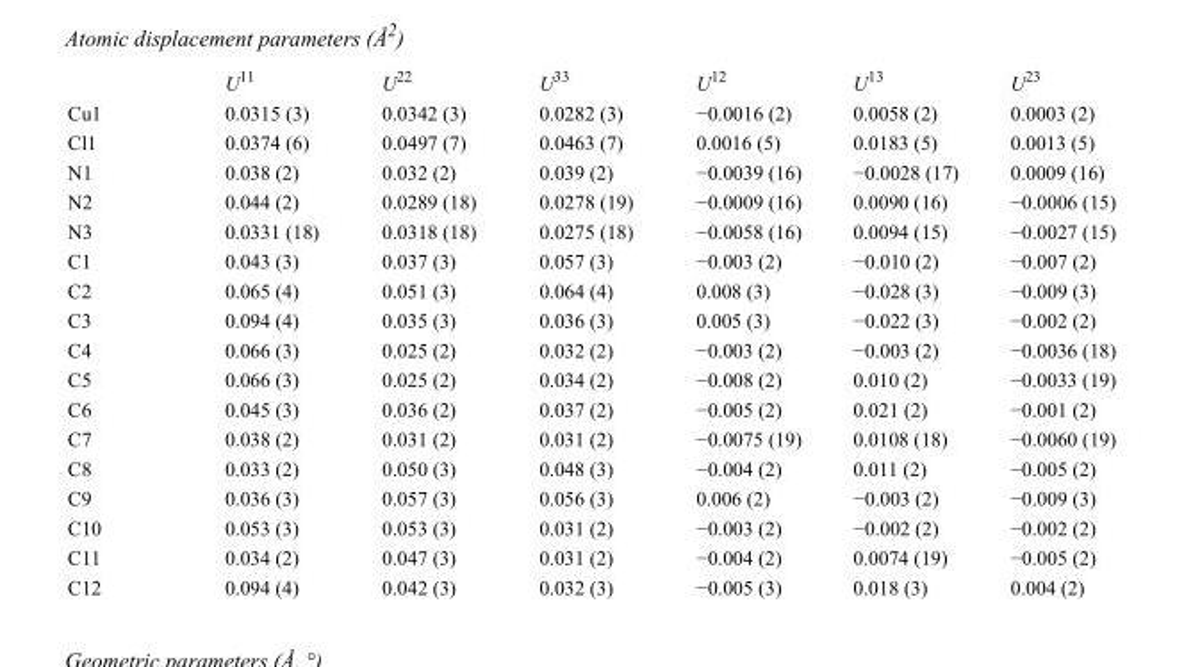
<table><thead><tr><td></td><td>U<sup>11</sup></td><td>U<sup>22</sup></td><td>U<sup>33</sup></td><td>U<sup>12</sup></td><td>U<sup>13</sup></td><td>U<sup>23</sup></td></tr></thead><tbody><tr><td>Cu1</td><td>0.0315 (3)</td><td>0.0342 (3)</td><td>0.0282 (3)</td><td>−0.0016 (2)</td><td>0.0058 (2)</td><td>0.0003 (2)</td></tr><tr><td>Cl1</td><td>0.0374 (6)</td><td>0.0497 (7)</td><td>0.0463 (7)</td><td>0.0016 (5)</td><td>0.0183 (5)</td><td>0.0013 (5)</td></tr><tr><td>N1</td><td>0.038 (2)</td><td>0.032 (2)</td><td>0.039 (2)</td><td>−0.0039 (16)</td><td>−0.0028 (17)</td><td>0.0009 (16)</td></tr><tr><td>N2</td><td>0.044 (2)</td><td>0.0289 (18)</td><td>0.0278 (19)</td><td>−0.0009 (16)</td><td>0.0090 (16)</td><td>−0.0006 (15)</td></tr><tr><td>N3</td><td>0.0331 (18)</td><td>0.0318 (18)</td><td>0.0275 (18)</td><td>−0.0058 (16)</td><td>0.0094 (15)</td><td>−0.0027 (15)</td></tr><tr><td>C1</td><td>0.043 (3)</td><td>0.037 (3)</td><td>0.057 (3)</td><td>−0.003 (2)</td><td>−0.010 (2)</td><td>−0.007 (2)</td></tr><tr><td>C2</td><td>0.065 (4)</td><td>0.051 (3)</td><td>0.064 (4)</td><td>0.008 (3)</td><td>−0.028 (3)</td><td>−0.009 (3)</td></tr><tr><td>C3</td><td>0.094 (4)</td><td>0.035 (3)</td><td>0.036 (3)</td><td>0.005 (3)</td><td>−0.022 (3)</td><td>−0.002 (2)</td></tr><tr><td>C4</td><td>0.066 (3)</td><td>0.025 (2)</td><td>0.032 (2)</td><td>−0.003 (2)</td><td>−0.003 (2)</td><td>−0.0036 (18)</td></tr><tr><td>C5</td><td>0.066 (3)</td><td>0.025 (2)</td><td>0.034 (2)</td><td>−0.008 (2)</td><td>0.010 (2)</td><td>−0.0033 (19)</td></tr><tr><td>C6</td><td>0.045 (3)</td><td>0.036 (2)</td><td>0.037 (2)</td><td>−0.005 (2)</td><td>0.021 (2)</td><td>−0.001 (2)</td></tr><tr><td>C7</td><td>0.038 (2)</td><td>0.031 (2)</td><td>0.031 (2)</td><td>−0.0075 (19)</td><td>0.0108 (18)</td><td>−0.0060 (19)</td></tr><tr><td>C8</td><td>0.033 (2)</td><td>0.050 (3)</td><td>0.048 (3)</td><td>−0.004 (2)</td><td>0.011 (2)</td><td>−0.005 (2)</td></tr><tr><td>C9</td><td>0.036 (3)</td><td>0.057 (3)</td><td>0.056 (3)</td><td>0.006 (2)</td><td>−0.003 (2)</td><td>−0.009 (3)</td></tr><tr><td>C10</td><td>0.053 (3)</td><td>0.053 (3)</td><td>0.031 (2)</td><td>−0.003 (2)</td><td>−0.002 (2)</td><td>−0.002 (2)</td></tr><tr><td>C11</td><td>0.034 (2)</td><td>0.047 (3)</td><td>0.031 (2)</td><td>−0.004 (2)</td><td>0.0074 (19)</td><td>−0.005 (2)</td></tr><tr><td>C12</td><td>0.094 (4)</td><td>0.042 (3)</td><td>0.032 (3)</td><td>−0.005 (3)</td><td>0.018 (3)</td><td>0.004 (2)</td></tr></tbody></table>